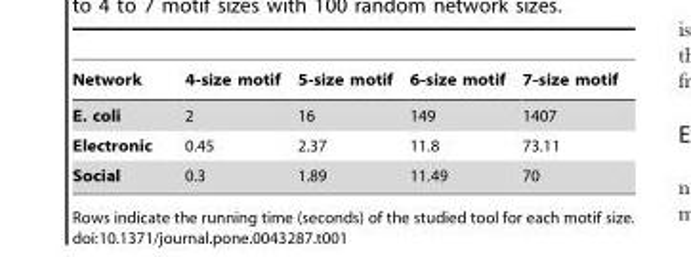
<table><thead><tr><td>Network</td><td>4-size motif</td><td>5-size motif</td><td>6-size motif</td><td>7-size motif</td></tr></thead><tbody><tr><td>E. coli</td><td>2</td><td>16</td><td>149</td><td>1407</td></tr><tr><td>Electronic</td><td>0.45</td><td>2.37</td><td>11.8</td><td>73.11</td></tr><tr><td>Social</td><td>0.3</td><td>1.89</td><td>11.49</td><td>70</td></tr></tbody></table>